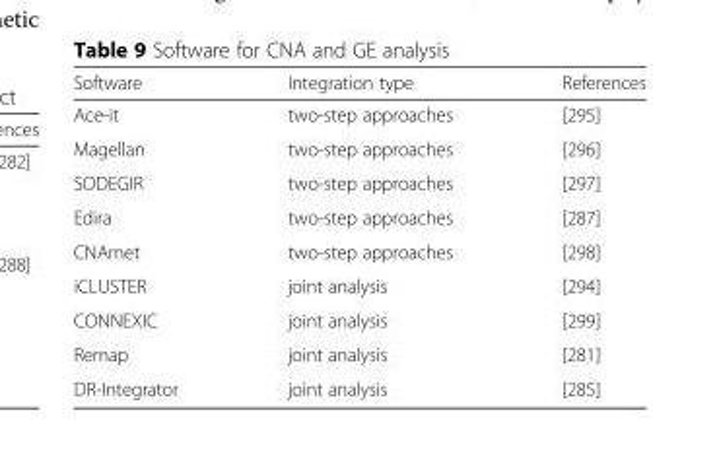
<table><thead><tr><td>Software</td><td>Integration type</td><td>References</td></tr></thead><tbody><tr><td>Ace-it</td><td>two-step approaches</td><td>[295]</td></tr><tr><td>Magellan</td><td>two-step approaches</td><td>[296]</td></tr><tr><td>SODEGIR</td><td>two-step approaches</td><td>[297]</td></tr><tr><td>Edira</td><td>two-step approaches</td><td>[287]</td></tr><tr><td>CNAmet</td><td>two-step approaches</td><td>[298]</td></tr><tr><td>iCLUSTER</td><td>joint analysis</td><td>[294]</td></tr><tr><td>CONNEXIC</td><td>joint analysis</td><td>[299]</td></tr><tr><td>Remap</td><td>joint analysis</td><td>[281]</td></tr><tr><td>DR-Integrator</td><td>joint analysis</td><td>[285]</td></tr></tbody></table>